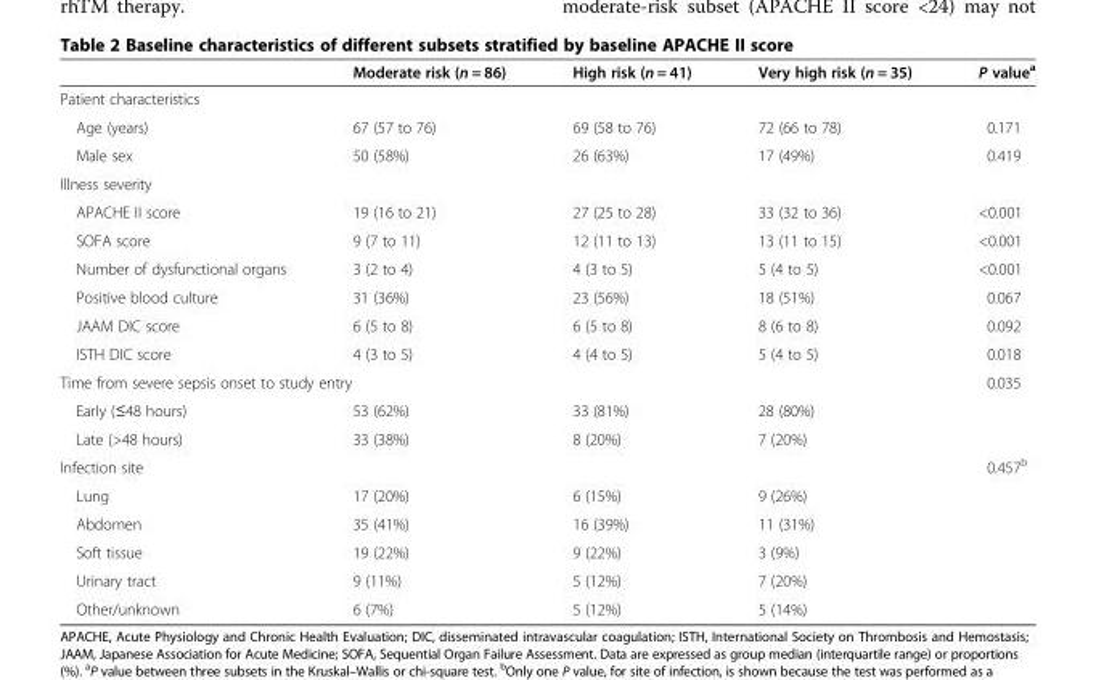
<table><thead><tr><td></td><td>Moderate risk (n = 86)</td><td>High risk (n = 41)</td><td>Very high risk (n = 35)</td><td>P value<sup>a</sup></td></tr></thead><tbody><tr><td colspan="5">Patient characteristics</td></tr><tr><td>Age (years)</td><td>67 (57 to 76)</td><td>69 (58 to 76)</td><td>72 (66 to 78)</td><td>0.171</td></tr><tr><td>Male sex</td><td>50 (58%)</td><td>26 (63%)</td><td>17 (49%)</td><td>0.419</td></tr><tr><td colspan="5">Illness severity</td></tr><tr><td>APACHE II score</td><td>19 (16 to 21)</td><td>27 (25 to 28)</td><td>33 (32 to 36)</td><td>&lt;0.001</td></tr><tr><td>SOFA score</td><td>9 (7 to 11)</td><td>12 (11 to 13)</td><td>13 (11 to 15)</td><td>&lt;0.001</td></tr><tr><td>Number of dysfunctional organs</td><td>3 (2 to 4)</td><td>4 (3 to 5)</td><td>5 (4 to 5)</td><td>&lt;0.001</td></tr><tr><td>Positive blood culture</td><td>31 (36%)</td><td>23 (56%)</td><td>18 (51%)</td><td>0.067</td></tr><tr><td>JAAM DIC score</td><td>6 (5 to 8)</td><td>6 (5 to 8)</td><td>8 (6 to 8)</td><td>0.092</td></tr><tr><td>ISTH DIC score</td><td>4 (3 to 5)</td><td>4 (4 to 5)</td><td>5 (4 to 5)</td><td>0.018</td></tr><tr><td colspan="4">Time from severe sepsis onset to study entry</td><td>0.035</td></tr><tr><td>Early (≤48 hours)</td><td>53 (62%)</td><td>33 (81%)</td><td>28 (80%)</td><td></td></tr><tr><td>Late (&gt;48 hours)</td><td>33 (38%)</td><td>8 (20%)</td><td>7 (20%)</td><td></td></tr><tr><td colspan="4">Infection site</td><td>0.457<sup>b</sup></td></tr><tr><td>Lung</td><td>17 (20%)</td><td>6 (15%)</td><td>9 (26%)</td><td></td></tr><tr><td>Abdomen</td><td>35 (41%)</td><td>16 (39%)</td><td>11 (31%)</td><td></td></tr><tr><td>Soft tissue</td><td>19 (22%)</td><td>9 (22%)</td><td>3 (9%)</td><td></td></tr><tr><td>Urinary tract</td><td>9 (11%)</td><td>5 (12%)</td><td>7 (20%)</td><td></td></tr><tr><td>Other/unknown</td><td>6 (7%)</td><td>5 (12%)</td><td>5 (14%)</td><td></td></tr></tbody></table>